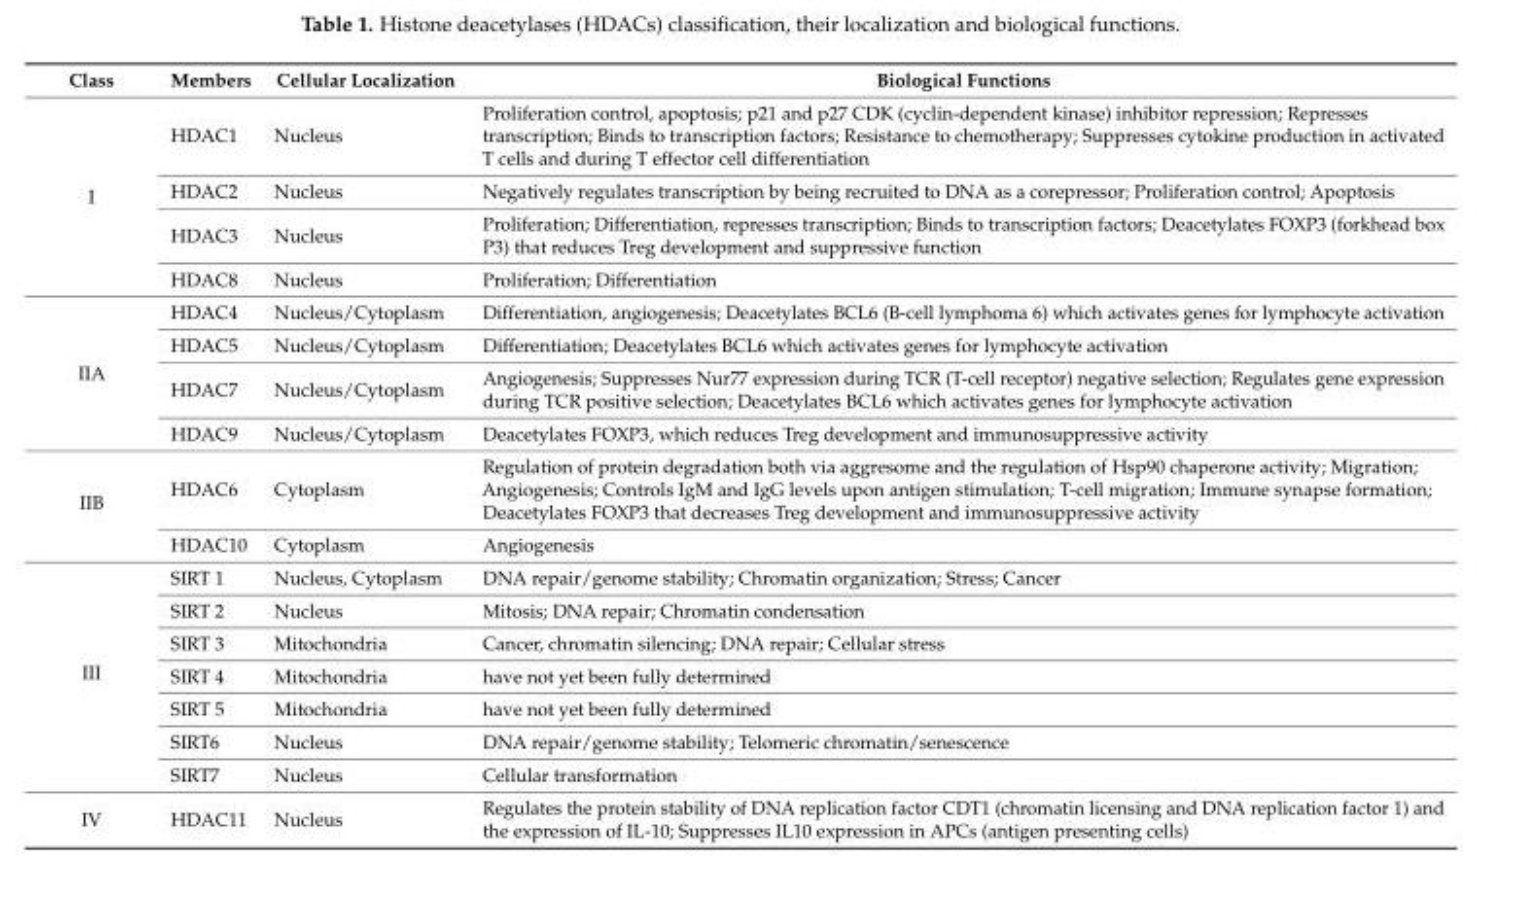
<table><thead><tr><td>Class</td><td>Members</td><td>Cellular Localization</td><td>Biological Functions</td></tr></thead><tbody><tr><td rowspan="4">I</td><td>HDAC1</td><td>Nucleus</td><td>Proliferation control, apoptosis; p21 and p27 CDK (cyclin-dependent kinase) inhibitor repression; Represses transcription; Binds to transcription factors; Resistance to chemotherapy; Suppresses cytokine production in activated T cells and during T effector cell differentiation</td></tr><tr><td>HDAC2</td><td>Nucleus</td><td>Negatively regulates transcription by being recruited to DNA as a corepressor; Proliferation control; Apoptosis</td></tr><tr><td>HDAC3</td><td>Nucleus</td><td>Proliferation; Differentiation, represses transcription; Binds to transcription factors; Deacetylates FOXP3 (forkhead box P3) that reduces Treg development and suppressive function</td></tr><tr><td>HDAC8</td><td>Nucleus</td><td>Proliferation; Differentiation</td></tr><tr><td rowspan="4">IIA</td><td>HDAC4</td><td>Nucleus/Cytoplasm</td><td>Differentiation, angiogenesis; Deacetylates BCL6 (B-cell lymphoma 6) which activates genes for lymphocyte activation</td></tr><tr><td>HDAC5</td><td>Nucleus/Cytoplasm</td><td>Differentiation; Deacetylates BCL6 which activates genes for lymphocyte activation</td></tr><tr><td>HDAC7</td><td>Nucleus/Cytoplasm</td><td>Angiogenesis; Suppresses Nur77 expression during TCR (T-cell receptor) negative selection; Regulates gene expression during TCR positive selection; Deacetylates BCL6 which activates genes for lymphocyte activation</td></tr><tr><td>HDAC9</td><td>Nucleus/Cytoplasm</td><td>Deacetylates FOXP3, which reduces Treg development and immunosuppressive activity</td></tr><tr><td rowspan="2">IIB</td><td>HDAC6</td><td>Cytoplasm</td><td>Regulation of protein degradation both via aggresome and the regulation of Hsp90 chaperone activity; Migration; Angiogenesis; Controls IgM and IgG levels upon antigen stimulation; T-cell migration; Immune synapse formation; Deacetylates FOXP3 that decreases Treg development and immunosuppressive activity</td></tr><tr><td>HDAC10</td><td>Cytoplasm</td><td>Angiogenesis</td></tr><tr><td rowspan="7">III</td><td>SIRT 1</td><td>Nucleus, Cytoplasm</td><td>DNA repair/genome stability; Chromatin organization; Stress; Cancer</td></tr><tr><td>SIRT 2</td><td>Nucleus</td><td>Mitosis; DNA repair; Chromatin condensation</td></tr><tr><td>SIRT 3</td><td>Mitochondria</td><td>Cancer, chromatin silencing; DNA repair; Cellular stress</td></tr><tr><td>SIRT 4</td><td>Mitochondria</td><td>have not yet been fully determined</td></tr><tr><td>SIRT 5</td><td>Mitochondria</td><td>have not yet been fully determined</td></tr><tr><td>SIRT6</td><td>Nucleus</td><td>DNA repair/genome stability; Telomeric chromatin/senescence</td></tr><tr><td>SIRT7</td><td>Nucleus</td><td>Cellular transformation</td></tr><tr><td>IV</td><td>HDAC11</td><td>Nucleus</td><td>Regulates the protein stability of DNA replication factor CDT1 (chromatin licensing and DNA replication factor 1) and the expression of IL-10; Suppresses IL10 expression in APCs (antigen presenting cells)</td></tr></tbody></table>